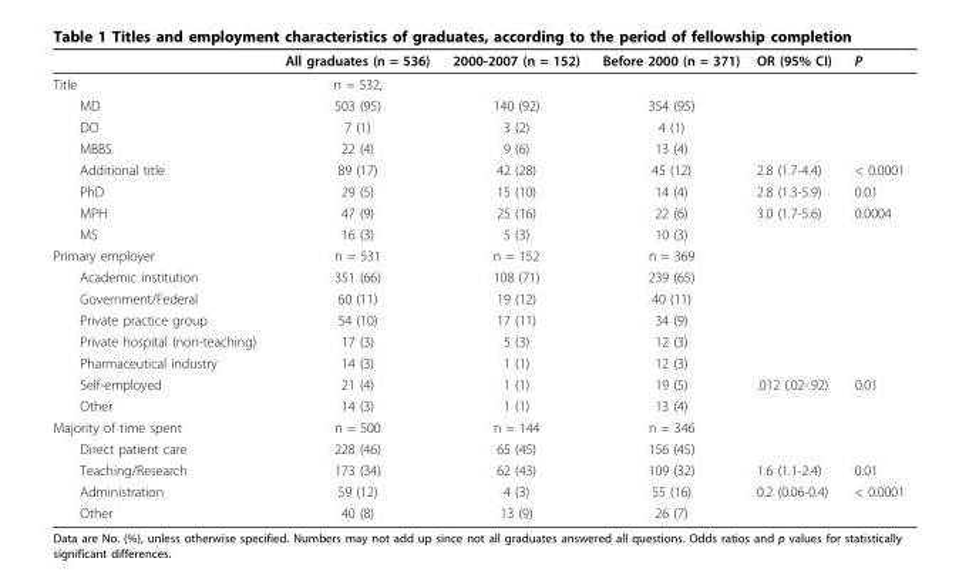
<table><thead><tr><td></td><td>All graduates (n = 536)</td><td>2000-2007 (n = 152)</td><td>Before 2000 (n = 371)</td><td>OR (95% CI)</td><td>P</td></tr></thead><tbody><tr><td>Title</td><td>n = 532,</td><td></td><td></td><td></td><td></td></tr><tr><td>MD</td><td>503 (95)</td><td>140 (92)</td><td>354 (95)</td><td></td><td></td></tr><tr><td>DO</td><td>7 (1)</td><td>3 (2)</td><td>4 (1)</td><td></td><td></td></tr><tr><td>MBBS</td><td>22 (4)</td><td>9 (6)</td><td>13 (4)</td><td></td><td></td></tr><tr><td>Additional title</td><td>89 (17)</td><td>42 (28)</td><td>45 (12)</td><td>2.8 (1.7-4.4)</td><td>&lt; 0.0001</td></tr><tr><td>PhD</td><td>29 (5)</td><td>15 (10)</td><td>14 (4)</td><td>2.8 (1.3-5.9)</td><td>0.01</td></tr><tr><td>MPH</td><td>47 (9)</td><td>25 (16)</td><td>22 (6)</td><td>3.0 (1.7-5.6)</td><td>0.0004</td></tr><tr><td>MS</td><td>16 (3)</td><td>5 (3)</td><td>10 (3)</td><td></td><td></td></tr><tr><td>Primary employer</td><td>n = 531</td><td>n = 152</td><td>n = 369</td><td></td><td></td></tr><tr><td>Academic institution</td><td>351 (66)</td><td>108 (71)</td><td>239 (65)</td><td></td><td></td></tr><tr><td>Government/Federal</td><td>60 (11)</td><td>19 (12)</td><td>40 (11)</td><td></td><td></td></tr><tr><td>Private practice group</td><td>54 (10)</td><td>17 (11)</td><td>34 (9)</td><td></td><td></td></tr><tr><td>Private hospital (non-teaching)</td><td>17 (3)</td><td>5 (3)</td><td>12 (3)</td><td></td><td></td></tr><tr><td>Pharmaceutical industry</td><td>14 (3)</td><td>1 (1)</td><td>12 (3)</td><td></td><td></td></tr><tr><td>Self-employed</td><td>21 (4)</td><td>1 (1)</td><td>19 (5)</td><td>.012 (.02-.92)</td><td>0.01</td></tr><tr><td>Other</td><td>14 (3)</td><td>1 (1)</td><td>13 (4)</td><td></td><td></td></tr><tr><td>Majority of time spent</td><td>n = 500</td><td>n = 144</td><td>n = 346</td><td></td><td></td></tr><tr><td>Direct patient care</td><td>228 (46)</td><td>65 (45)</td><td>156 (45)</td><td></td><td></td></tr><tr><td>Teaching/Research</td><td>173 (34)</td><td>62 (43)</td><td>109 (32)</td><td>1.6 (1.1-2.4)</td><td>0.01</td></tr><tr><td>Administration</td><td>59 (12)</td><td>4 (3)</td><td>55 (16)</td><td>0.2 (0.06-0.4)</td><td>&lt; 0.0001</td></tr><tr><td>Other</td><td>40 (8)</td><td>13 (9)</td><td>26 (7)</td><td></td><td></td></tr></tbody></table>